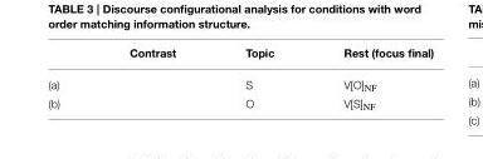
<table><thead><tr><td></td><td>Contrast</td><td>Topic</td><td>Rest (focus final)</td></tr></thead><tbody><tr><td>(a)</td><td></td><td>S</td><td>V[O]<sub>NF</sub></td></tr><tr><td>(b)</td><td></td><td>O</td><td>V[S]<sub>NF</sub></td></tr></tbody></table>